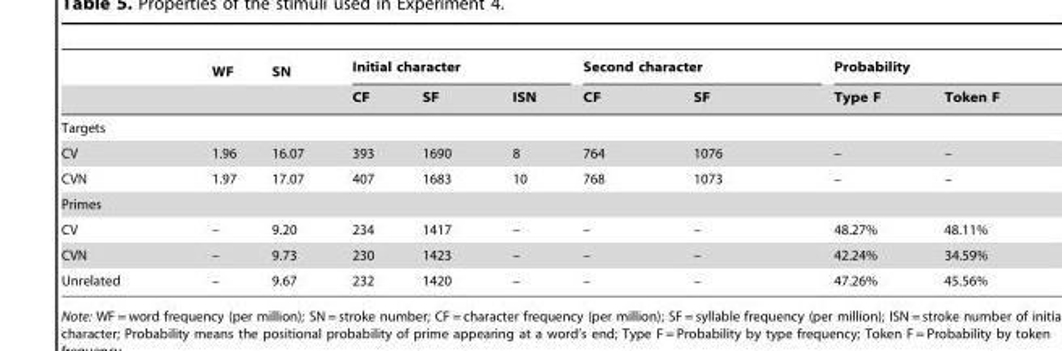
<table><thead><tr><td rowspan="2"></td><td rowspan="2">WF</td><td rowspan="2">SN</td><td colspan="3">Initial character</td><td colspan="2">Second character</td><td colspan="2">Probability</td></tr><tr><td>CF</td><td>SF</td><td>ISN</td><td>CF</td><td>SF</td><td>Type F</td><td>Token F</td></tr></thead><tbody><tr><td colspan="10">Targets</td></tr><tr><td>CV</td><td>1.96</td><td>16.07</td><td>393</td><td>1690</td><td>8</td><td>764</td><td>1076</td><td>–</td><td>–</td></tr><tr><td>CVN</td><td>1.97</td><td>17.07</td><td>407</td><td>1683</td><td>10</td><td>768</td><td>1073</td><td>–</td><td>–</td></tr><tr><td colspan="10">Primes</td></tr><tr><td>CV</td><td>–</td><td>9.20</td><td>234</td><td>1417</td><td>–</td><td>–</td><td>–</td><td>48.27%</td><td>48.11%</td></tr><tr><td>CVN</td><td>–</td><td>9.73</td><td>230</td><td>1423</td><td>–</td><td>–</td><td>–</td><td>42.24%</td><td>34.59%</td></tr><tr><td>Unrelated</td><td>–</td><td>9.67</td><td>232</td><td>1420</td><td>–</td><td>–</td><td>–</td><td>47.26%</td><td>45.56%</td></tr></tbody></table>